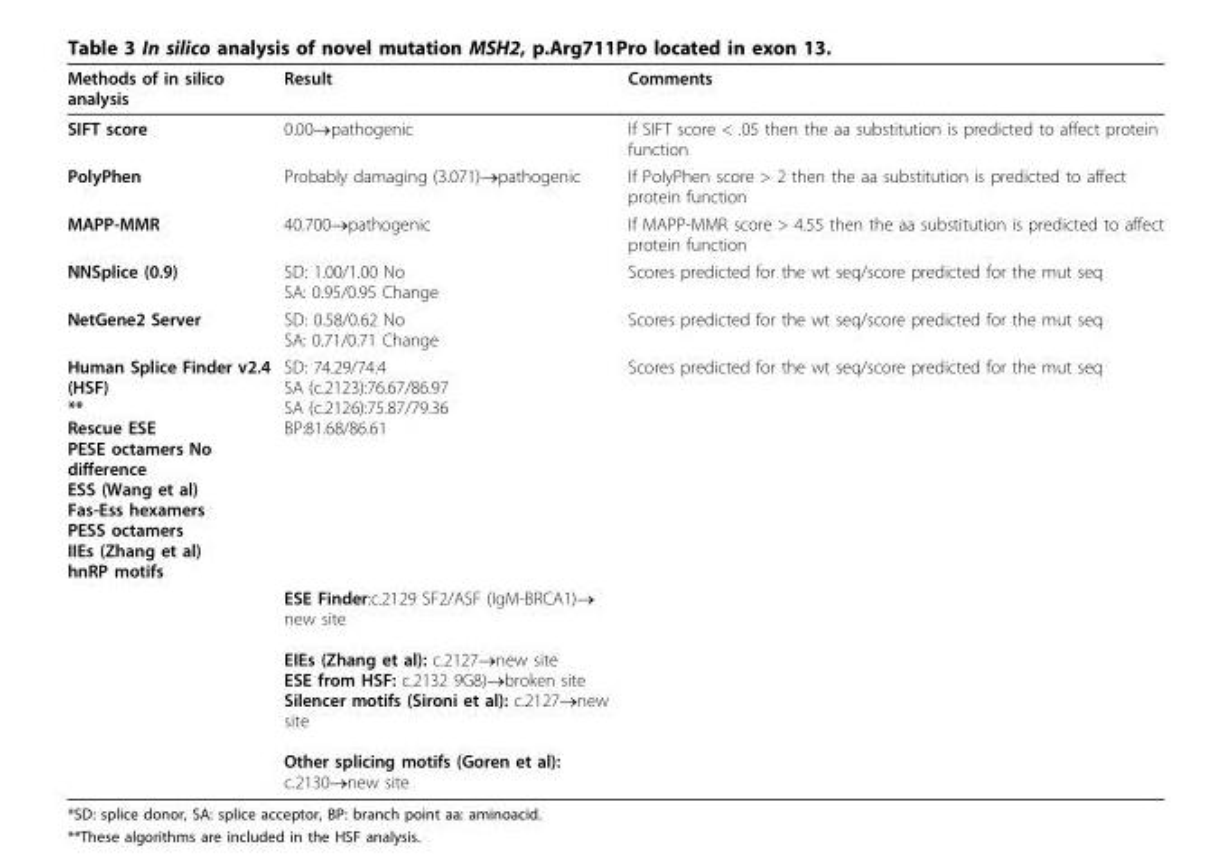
<table><thead><tr><td>Methods of in silico analysis</td><td>Result</td><td>Comments</td></tr></thead><tbody><tr><td>SIFT score</td><td>0.00→pathogenic</td><td>If SIFT score &lt; .05 then the aa substitution is predicted to affect protein function</td></tr><tr><td>PolyPhen</td><td>Probably damaging (3.071)→pathogenic</td><td>If PolyPhen score &gt; 2 then the aa substitution is predicted to affect protein function</td></tr><tr><td>MAPP-MMR</td><td>40.700→pathogenic</td><td>If MAPP-MMR score &gt; 4.55 then the aa substitution is predicted to affect protein function</td></tr><tr><td>NNSplice (0.9)</td><td>SD: 1.00/1.00 No SA: 0.95/0.95 Change</td><td>Scores predicted for the wt seq/score predicted for the mut seq</td></tr><tr><td>NetGene2 Server</td><td>SD: 0.58/0.62 No SA: 0.71/0.71 Change</td><td>Scores predicted for the wt seq/score predicted for the mut seq</td></tr><tr><td rowspan="2">Human Splice Finder v2.4 (HSF) ** Rescue ESE PESE octamers No difference ESS (Wang et al) Fas-Ess hexamers PESS octamers IIEs (Zhang et al) hnRP motifs</td><td>SD: 74.29/74.4 SA (c.2123):76.67/86.97 SA (c.2126):75.87/79.36 BP:81.68/86.61</td><td>Scores predicted for the wt seq/score predicted for the mut seq</td></tr><tr><td>ESE Finder:c.2129 SF2/ASF (IgM-BRCA1)→ new site EIEs (Zhang et al): c.2127→new site ESE from HSF: c.2132 9G8)→broken site Silencer motifs (Sironi et al): c.2127→new site Other splicing motifs (Goren et al): c.2130→new site</td><td></td></tr></tbody></table>